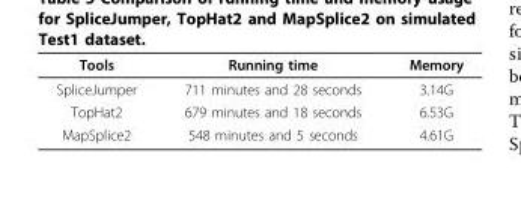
<table><thead><tr><td>Tools</td><td>Running time</td><td>Memory</td></tr></thead><tbody><tr><td>SpliceJumper</td><td>711 minutes and 28 seconds</td><td>3.14G</td></tr><tr><td>TopHat2</td><td>679 minutes and 18 seconds</td><td>6.53G</td></tr><tr><td>MapSplice2</td><td>548 minutes and 5 seconds</td><td>4.61G</td></tr></tbody></table>